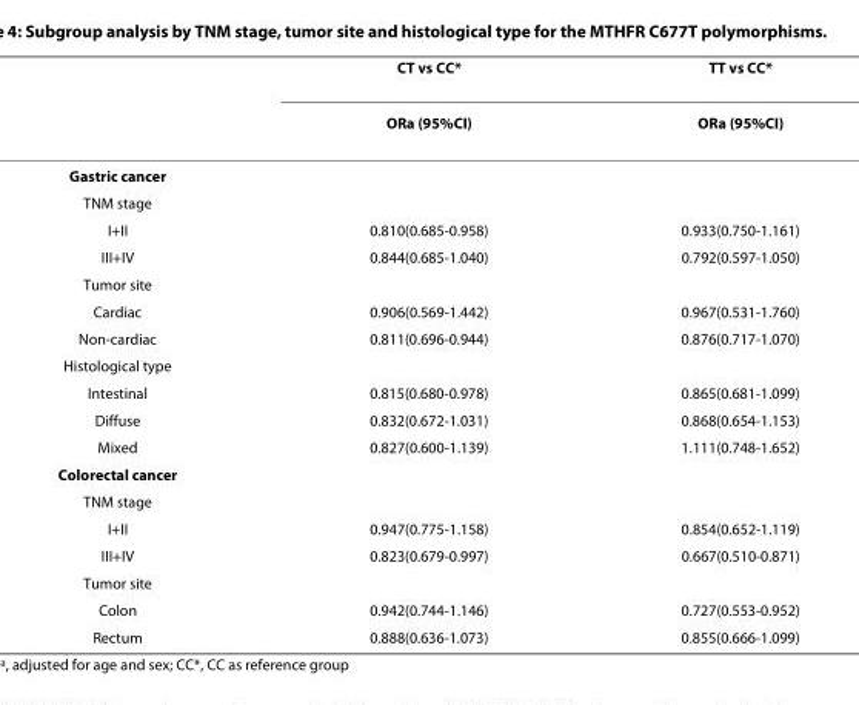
<table><thead><tr><td rowspan="2"></td><td rowspan="2">CT vs CC* OR<sup>a</sup> (95%CI)</td><td rowspan="2">TT vs CC* OR<sup>a</sup> (95%CI)</td></tr><tr></tr></thead><tbody><tr><td colspan="3">Gastric cancer</td></tr><tr><td colspan="3">TNM stage</td></tr><tr><td>I+II</td><td>0.810(0.685-0.958)</td><td>0.933(0.750-1.161)</td></tr><tr><td>III+IV</td><td>0.844(0.685-1.040)</td><td>0.792(0.597-1.050)</td></tr><tr><td colspan="3">Tumor site</td></tr><tr><td>Cardiac</td><td>0.906(0.569-1.442)</td><td>0.967(0.531-1.760)</td></tr><tr><td>Non-cardiac</td><td>0.811(0.696-0.944)</td><td>0.876(0.717-1.070)</td></tr><tr><td colspan="3">Histological type</td></tr><tr><td>Intestinal</td><td>0.815(0.680-0.978)</td><td>0.865(0.681-1.099)</td></tr><tr><td>Diffuse</td><td>0.832(0.672-1.031)</td><td>0.868(0.654-1.153)</td></tr><tr><td>Mixed</td><td>0.827(0.600-1.139)</td><td>1.111(0.748-1.652)</td></tr><tr><td colspan="3">Colorectal cancer</td></tr><tr><td colspan="3">TNM stage</td></tr><tr><td>I+II</td><td>0.947(0.775-1.158)</td><td>0.854(0.652-1.119)</td></tr><tr><td>III+IV</td><td>0.823(0.679-0.997)</td><td>0.667(0.510-0.871)</td></tr><tr><td colspan="3">Tumor site</td></tr><tr><td>Colon</td><td>0.942(0.744-1.146)</td><td>0.727(0.553-0.952)</td></tr><tr><td>Rectum</td><td>0.888(0.636-1.073)</td><td>0.855(0.666-1.099)</td></tr></tbody></table>